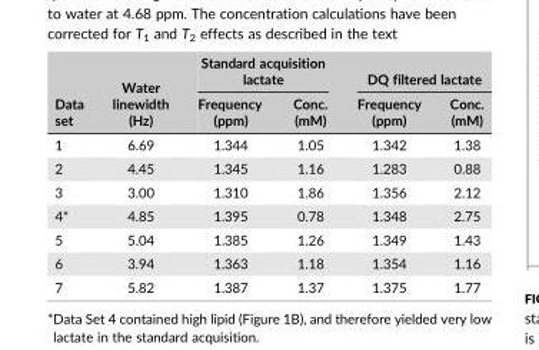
<table><thead><tr><td rowspan="2">Data set</td><td rowspan="2">Water linewidth (Hz)</td><td colspan="2">Standard acquisition lactate</td><td colspan="2">DQ filtered lactate</td></tr><tr><td>Frequency (ppm)</td><td>Conc. (mM)</td><td>Frequency (ppm)</td><td>Conc. (mM)</td></tr></thead><tbody><tr><td>1</td><td>6.69</td><td>1.344</td><td>1.05</td><td>1.342</td><td>1.38</td></tr><tr><td>2</td><td>4.45</td><td>1.345</td><td>1.16</td><td>1.283</td><td>0.88</td></tr><tr><td>3</td><td>3.00</td><td>1.310</td><td>1.86</td><td>1.356</td><td>2.12</td></tr><tr><td>4*</td><td>4.85</td><td>1.395</td><td>0.78</td><td>1.348</td><td>2.75</td></tr><tr><td>5</td><td>5.04</td><td>1.385</td><td>1.26</td><td>1.349</td><td>1.43</td></tr><tr><td>6</td><td>3.94</td><td>1.363</td><td>1.18</td><td>1.354</td><td>1.16</td></tr><tr><td>7</td><td>5.82</td><td>1.387</td><td>1.37</td><td>1.375</td><td>1.77</td></tr></tbody></table>